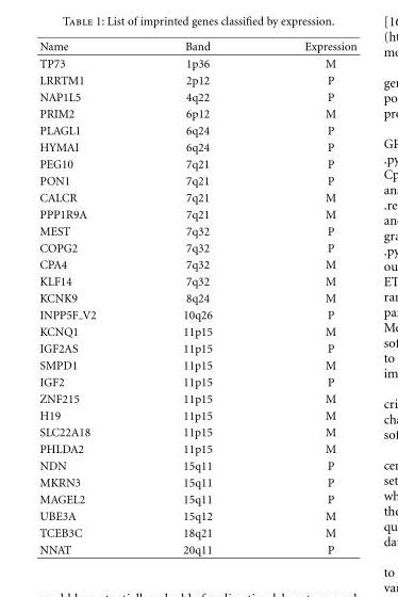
<table><thead><tr><td>Name</td><td>Band</td><td>Expression</td></tr></thead><tbody><tr><td>TP73</td><td>1p36</td><td>M</td></tr><tr><td>LRRTM1</td><td>2p12</td><td>P</td></tr><tr><td>NAP1L5</td><td>4q22</td><td>P</td></tr><tr><td>PRIM2</td><td>6p12</td><td>M</td></tr><tr><td>PLAGL1</td><td>6q24</td><td>P</td></tr><tr><td>HYMAI</td><td>6q24</td><td>P</td></tr><tr><td>PEG10</td><td>7q21</td><td>P</td></tr><tr><td>PON1</td><td>7q21</td><td>P</td></tr><tr><td>CALCR</td><td>7q21</td><td>M</td></tr><tr><td>PPP1R9A</td><td>7q21</td><td>M</td></tr><tr><td>MEST</td><td>7q32</td><td>P</td></tr><tr><td>COPG2</td><td>7q32</td><td>P</td></tr><tr><td>CPA4</td><td>7q32</td><td>M</td></tr><tr><td>KLF14</td><td>7q32</td><td>M</td></tr><tr><td>KCNK9</td><td>8q24</td><td>M</td></tr><tr><td>INPP5F V2</td><td>10q26</td><td>P</td></tr><tr><td>KCNQ1</td><td>11p15</td><td>M</td></tr><tr><td>IGF2AS</td><td>11p15</td><td>P</td></tr><tr><td>SMPD1</td><td>11p15</td><td>M</td></tr><tr><td>IGF2</td><td>11p15</td><td>P</td></tr><tr><td>ZNF215</td><td>11p15</td><td>M</td></tr><tr><td>H19</td><td>11p15</td><td>M</td></tr><tr><td>SLC22A18</td><td>11p15</td><td>M</td></tr><tr><td>PHLDA2</td><td>11p15</td><td>M</td></tr><tr><td>NDN</td><td>15q11</td><td>P</td></tr><tr><td>MKRN3</td><td>15q11</td><td>P</td></tr><tr><td>MAGEL2</td><td>15q11</td><td>P</td></tr><tr><td>UBE3A</td><td>15q12</td><td>M</td></tr><tr><td>TCEB3C</td><td>18q21</td><td>M</td></tr><tr><td>NNAT</td><td>20q11</td><td>P</td></tr></tbody></table>